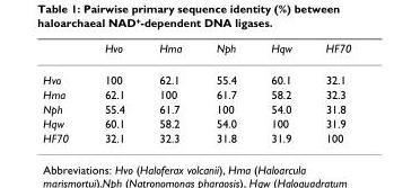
<table><thead><tr><td></td><td>Hvo</td><td>Hma</td><td>Nph</td><td>Hqw</td><td>HF70</td></tr></thead><tbody><tr><td>Hvo</td><td>100</td><td>62.1</td><td>55.4</td><td>60.1</td><td>32.1</td></tr><tr><td>Hma</td><td>62.1</td><td>100</td><td>61.7</td><td>58.2</td><td>32.3</td></tr><tr><td>Nph</td><td>55.4</td><td>61.7</td><td>100</td><td>54.0</td><td>31.8</td></tr><tr><td>Hqw</td><td>60.1</td><td>58.2</td><td>54.0</td><td>100</td><td>31.9</td></tr><tr><td>HF70</td><td>32.1</td><td>32.3</td><td>31.8</td><td>31.9</td><td>100</td></tr></tbody></table>